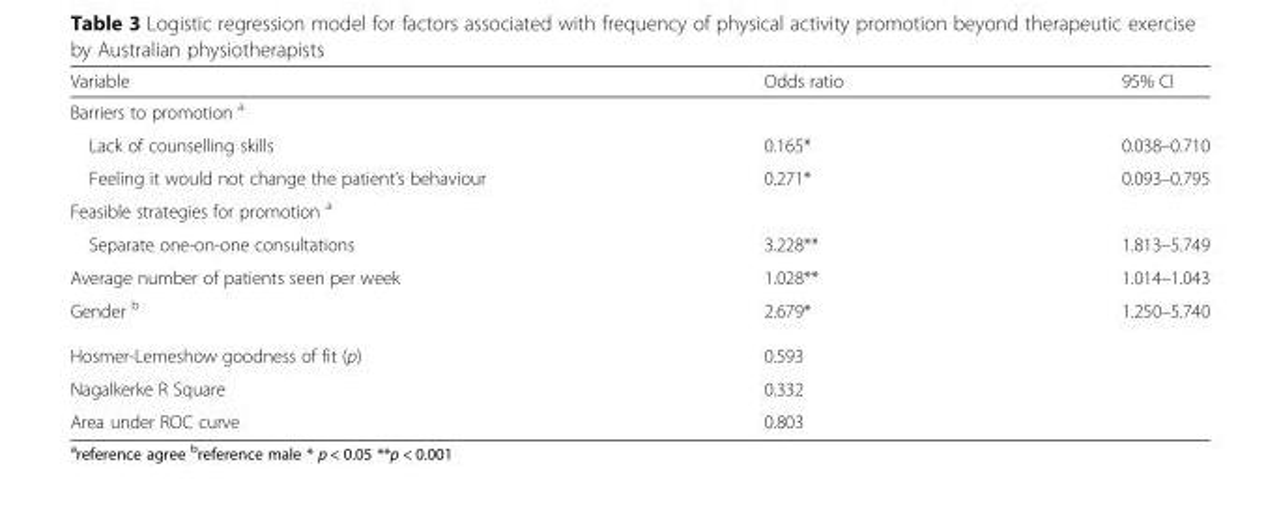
<table><thead><tr><td>Variable</td><td>Odds ratio</td><td>95% CI</td></tr></thead><tbody><tr><td colspan="3">Barriers to promotion <sup>a</sup></td></tr><tr><td>Lack of counselling skills</td><td>0.165*</td><td>0.038–0.710</td></tr><tr><td>Feeling it would not change the patient’s behaviour</td><td>0.271*</td><td>0.093–0.795</td></tr><tr><td colspan="3">Feasible strategies for promotion <sup>a</sup></td></tr><tr><td>Separate one-on-one consultations</td><td>3.228**</td><td>1.813–5.749</td></tr><tr><td>Average number of patients seen per week</td><td>1.028**</td><td>1.014–1.043</td></tr><tr><td>Gender <sup>b</sup></td><td>2.679*</td><td>1.250–5.740</td></tr><tr><td>Hosmer-Lemeshow goodness of fit (p)</td><td>0.593</td><td></td></tr><tr><td>Nagalkerke R Square</td><td>0.332</td><td></td></tr><tr><td>Area under ROC curve</td><td>0.803</td><td></td></tr></tbody></table>